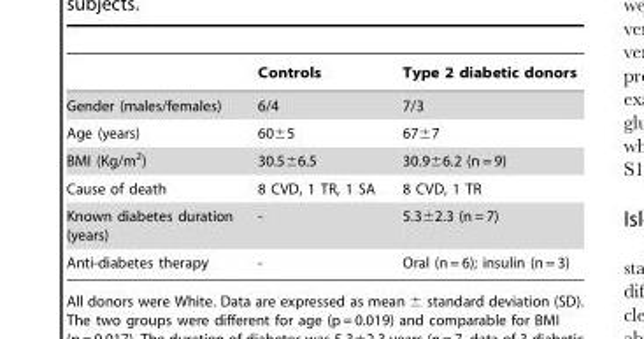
<table><thead><tr><td></td><td>Controls</td><td>Type 2 diabetic donors</td></tr></thead><tbody><tr><td>Gender (males/females)</td><td>6/4</td><td>7/3</td></tr><tr><td>Age (years)</td><td>60±5</td><td>67±7</td></tr><tr><td>BMI (Kg/m<sup>2</sup>)</td><td>30.5±6.5</td><td>30.9±6.2 (n = 9)</td></tr><tr><td>Cause of death</td><td>8 CVD, 1 TR, 1 SA</td><td>8 CVD, 1 TR</td></tr><tr><td>Known diabetes duration (years)</td><td>-</td><td>5.3±2.3 (n = 7)</td></tr><tr><td>Anti-diabetes therapy</td><td>-</td><td>Oral (n = 6); insulin (n = 3)</td></tr></tbody></table>